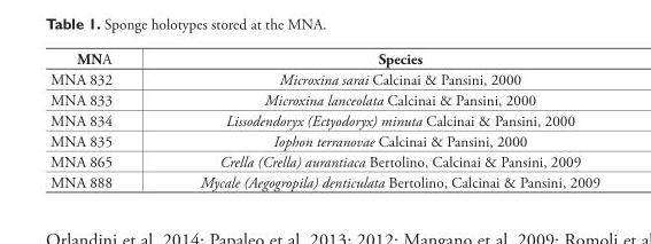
<table><thead><tr><td>MNA</td><td>Species</td></tr></thead><tbody><tr><td>MNA 832</td><td>Microxina sarai Calcinai &amp; Pansini, 2000</td></tr><tr><td>MNA 833</td><td>Microxina lanceolata Calcinai &amp; Pansini, 2000</td></tr><tr><td>MNA 834</td><td>Lissodendoryx (Ectyodoryx) minuta Calcinai &amp; Pansini, 2000</td></tr><tr><td>MNA 835</td><td>Iophon terranovae Calcinai &amp; Pansini, 2000</td></tr><tr><td>MNA 865</td><td>Crella (Crella) aurantiaca Bertolino, Calcinai &amp; Pansini, 2009</td></tr><tr><td>MNA 888</td><td>Mycale (Aegogropila) denticulata Bertolino, Calcinai &amp; Pansini, 2009</td></tr></tbody></table>